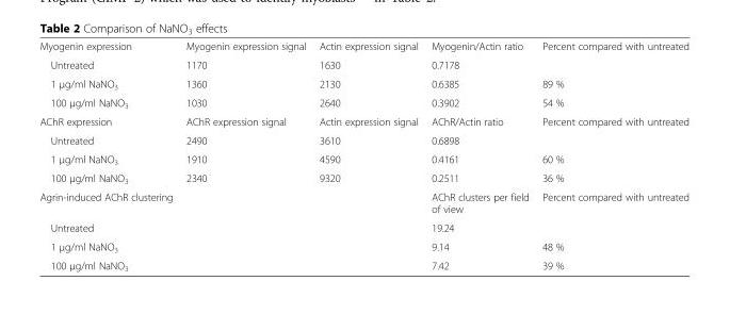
<table><tbody><tr><td>Myogenin expression</td><td>Myogenin expression signal</td><td>Actin expression signal</td><td>Myogenin/Actin ratio</td><td>Percent compared with untreated</td></tr><tr><td>Untreated</td><td>1170</td><td>1630</td><td>0.7178</td><td></td></tr><tr><td>1 μg/ml NaNO<sub>3</sub></td><td>1360</td><td>2130</td><td>0.6385</td><td>89 %</td></tr><tr><td>100 μg/ml NaNO<sub>3</sub></td><td>1030</td><td>2640</td><td>0.3902</td><td>54 %</td></tr><tr><td>AChR expression</td><td>AChR expression signal</td><td>Actin expression signal</td><td>AChR/Actin ratio</td><td>Percent compared with untreated</td></tr><tr><td>Untreated</td><td>2490</td><td>3610</td><td>0.6898</td><td></td></tr><tr><td>1 μg/ml NaNO<sub>3</sub></td><td>1910</td><td>4590</td><td>0.4161</td><td>60 %</td></tr><tr><td>100 μg/ml NaNO<sub>3</sub></td><td>2340</td><td>9320</td><td>0.2511</td><td>36 %</td></tr><tr><td>Agrin-induced AChR clustering</td><td></td><td></td><td>AChR clusters per field of view</td><td>Percent compared with untreated</td></tr><tr><td>Untreated</td><td></td><td></td><td>19.24</td><td></td></tr><tr><td>1 μg/ml NaNO<sub>3</sub></td><td></td><td></td><td>9.14</td><td>48 %</td></tr><tr><td>100 μg/ml NaNO<sub>3</sub></td><td></td><td></td><td>7.42</td><td>39 %</td></tr></tbody></table>